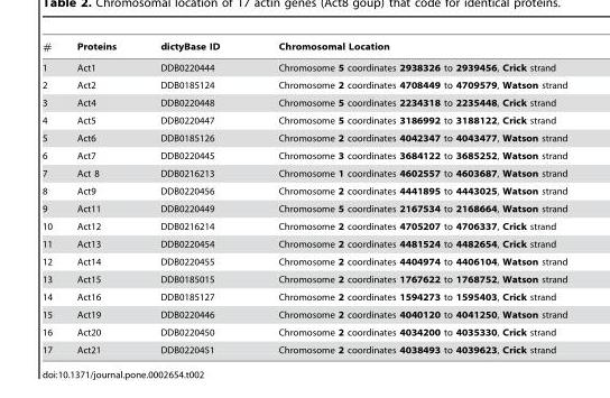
<table><thead><tr><td>#</td><td>Proteins</td><td>dictyBase ID</td><td>Chromosomal Location</td></tr></thead><tbody><tr><td>1</td><td>Act1</td><td>DDB0220444</td><td>Chromosome 5 coordinates 2938326 to 2939456, Crick strand</td></tr><tr><td>2</td><td>Act2</td><td>DDB0185124</td><td>Chromosome 2 coordinates 4708449 to 4709579, Watson strand</td></tr><tr><td>3</td><td>Act4</td><td>DDB0220448</td><td>Chromosome 5 coordinates 2234318 to 2235448, Crick strand</td></tr><tr><td>4</td><td>Act5</td><td>DDB0220447</td><td>Chromosome 5 coordinates 3186992 to 3188122, Crick strand</td></tr><tr><td>5</td><td>Act6</td><td>DDB0185126</td><td>Chromosome 2 coordinates 4042347 to 4043477, Watson strand</td></tr><tr><td>6</td><td>Act7</td><td>DDB0220445</td><td>Chromosome 3 coordinates 3684122 to 3685252, Watson strand</td></tr><tr><td>7</td><td>Act 8</td><td>DDB0216213</td><td>Chromosome 1 coordinates 4602557 to 4603687, Watson strand</td></tr><tr><td>8</td><td>Act9</td><td>DDB0220456</td><td>Chromosome 2 coordinates 4441895 to 4443025, Watson strand</td></tr><tr><td>9</td><td>Act11</td><td>DDB0220449</td><td>Chromosome 5 coordinates 2167534 to 2168664, Watson strand</td></tr><tr><td>10</td><td>Act12</td><td>DDB0216214</td><td>Chromosome 2 coordinates 4705207 to 4706337, Crick strand</td></tr><tr><td>11</td><td>Act13</td><td>DDB0220454</td><td>Chromosome 2 coordinates 4481524 to 4482654, Crick strand</td></tr><tr><td>12</td><td>Act14</td><td>DDB0220455</td><td>Chromosome 2 coordinates 4404974 to 4406104, Watson strand</td></tr><tr><td>13</td><td>Act15</td><td>DDB0185015</td><td>Chromosome 2 coordinates 1767622 to 1768752, Watson strand</td></tr><tr><td>14</td><td>Act16</td><td>DDB0185127</td><td>Chromosome 2 coordinates 1594273 to 1595403, Crick strand</td></tr><tr><td>15</td><td>Act19</td><td>DDB0220446</td><td>Chromosome 2 coordinates 4040120 to 4041250, Watson strand</td></tr><tr><td>16</td><td>Act20</td><td>DDB0220450</td><td>Chromosome 2 coordinates 4034200 to 4035330, Crick strand</td></tr><tr><td>17</td><td>Act21</td><td>DDB0220451</td><td>Chromosome 2 coordinates 4038493 to 4039623, Crick strand</td></tr></tbody></table>